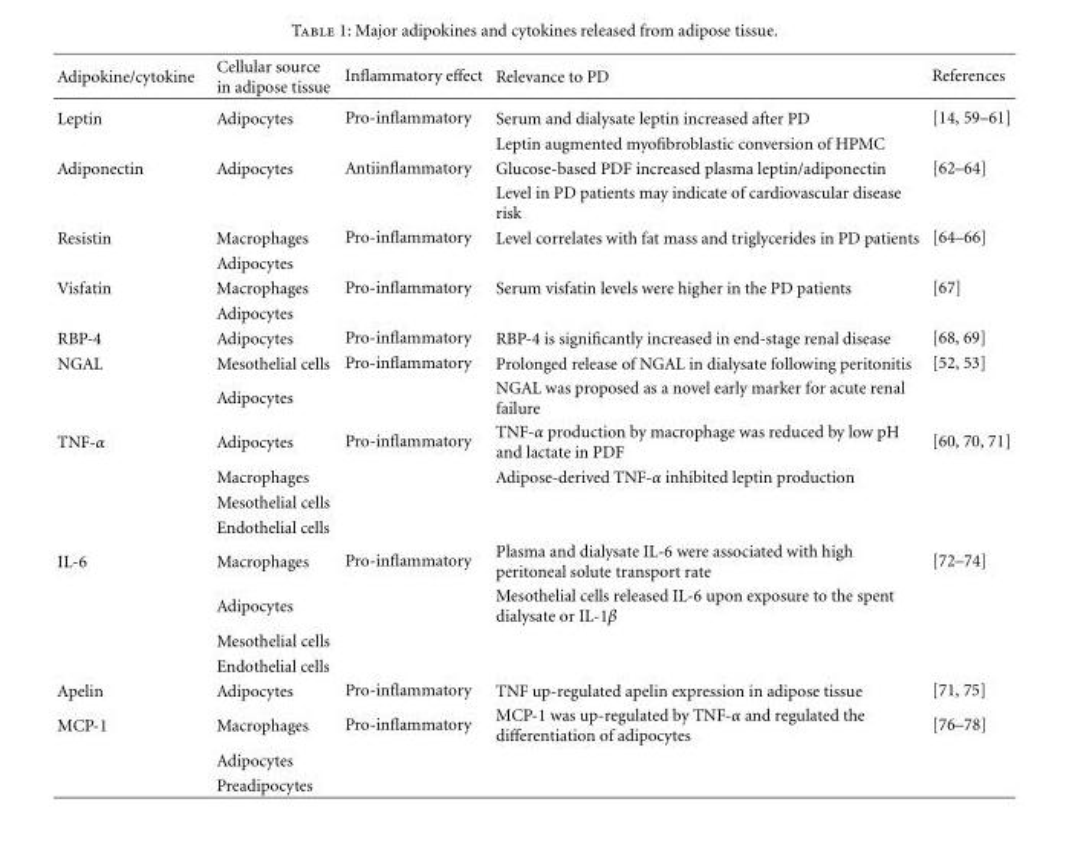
<table><thead><tr><td>Adipokine/cytokine</td><td>Cellular source in adipose tissue</td><td>Inflammatory effect</td><td>Relevance to PD</td><td>References</td></tr></thead><tbody><tr><td rowspan="2">Leptin</td><td>Adipocytes</td><td>Pro-inflammatory</td><td>Serum and dialysate leptin increased after PD</td><td>[14, 59–61]</td></tr><tr><td></td><td></td><td>Leptin augmented myofibroblastic conversion of HPMC</td><td></td></tr><tr><td rowspan="2">Adiponectin</td><td>Adipocytes</td><td>Antiinflammatory</td><td>Glucose-based PDF increased plasma leptin/adiponectin</td><td>[62–64]</td></tr><tr><td></td><td></td><td>Level in PD patients may indicate of cardiovascular disease risk</td><td></td></tr><tr><td rowspan="2">Resistin</td><td>Macrophages</td><td>Pro-inflammatory</td><td>Level correlates with fat mass and triglycerides in PD patients</td><td>[64–66]</td></tr><tr><td>Adipocytes</td><td></td><td></td><td></td></tr><tr><td rowspan="2">Visfatin</td><td>Macrophages</td><td>Pro-inflammatory</td><td>Serum visfatin levels were higher in the PD patients</td><td>[67]</td></tr><tr><td>Adipocytes</td><td></td><td></td><td></td></tr><tr><td>RBP-4</td><td>Adipocytes</td><td>Pro-inflammatory</td><td>RBP-4 is significantly increased in end-stage renal disease</td><td>[68, 69]</td></tr><tr><td rowspan="2">NGAL</td><td>Mesothelial cells</td><td>Pro-inflammatory</td><td>Prolonged release of NGAL in dialysate following peritonitis</td><td>[52, 53]</td></tr><tr><td>Adipocytes</td><td></td><td>NGAL was proposed as a novel early marker for acute renal failure</td><td></td></tr><tr><td rowspan="4">TNF-α</td><td>Adipocytes</td><td>Pro-inflammatory</td><td>TNF-α production by macrophage was reduced by low pH and lactate in PDF</td><td>[60, 70, 71]</td></tr><tr><td>Macrophages</td><td></td><td>Adipose-derived TNF-α inhibited leptin production</td><td></td></tr><tr><td>Mesothelial cells</td><td></td><td></td><td></td></tr><tr><td>Endothelial cells</td><td></td><td></td><td></td></tr><tr><td rowspan="4">IL-6</td><td>Macrophages</td><td>Pro-inflammatory</td><td>Plasma and dialysate IL-6 were associated with high peritoneal solute transport rate</td><td>[72–74]</td></tr><tr><td>Adipocytes</td><td></td><td>Mesothelial cells released IL-6 upon exposure to the spent dialysate or IL-1β</td><td></td></tr><tr><td>Mesothelial cells</td><td></td><td></td><td></td></tr><tr><td>Endothelial cells</td><td></td><td></td><td></td></tr><tr><td>Apelin</td><td>Adipocytes</td><td>Pro-inflammatory</td><td>TNF up-regulated apelin expression in adipose tissue</td><td>[71, 75]</td></tr><tr><td rowspan="3">MCP-1</td><td>Macrophages</td><td>Pro-inflammatory</td><td>MCP-1 was up-regulated by TNF-α and regulated the differentiation of adipocytes</td><td>[76–78]</td></tr><tr><td>Adipocytes</td><td></td><td></td><td></td></tr><tr><td>Preadipocytes</td><td></td><td></td><td></td></tr></tbody></table>